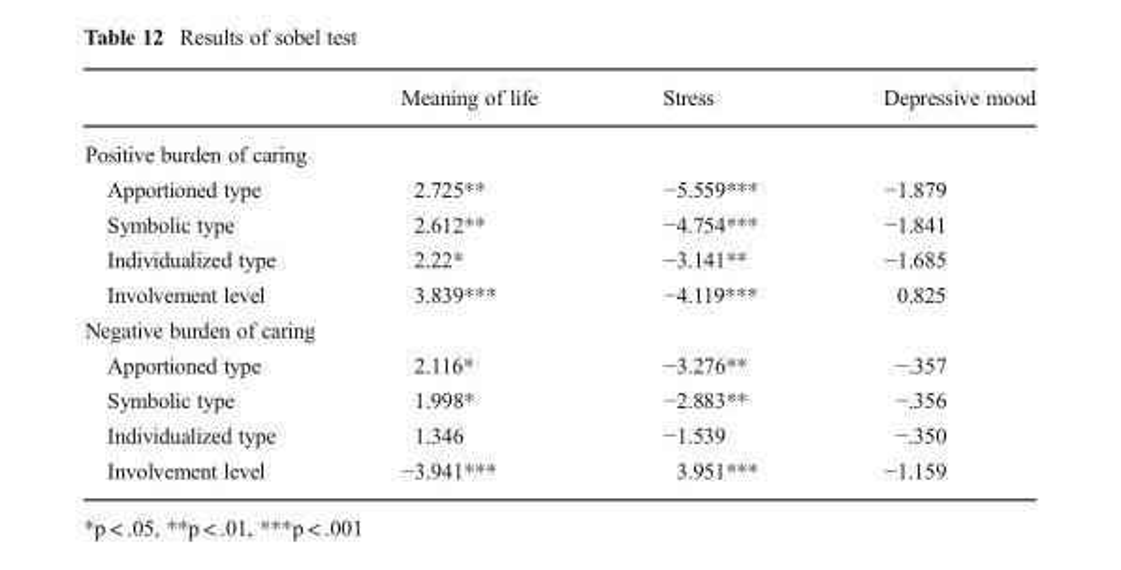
<table><thead><tr><td></td><td>Meaning of life</td><td>Stress</td><td>Depressive mood</td></tr></thead><tbody><tr><td colspan="4">Positive burden of caring</td></tr><tr><td>Apportioned type</td><td>2.725**</td><td>−5.559***</td><td>−1.879</td></tr><tr><td>Symbolic type</td><td>2.612**</td><td>−4.754***</td><td>−1.841</td></tr><tr><td>Individualized type</td><td>2.22*</td><td>−3.141**</td><td>−1.685</td></tr><tr><td>Involvement level</td><td>3.839***</td><td>−4.119***</td><td>0.825</td></tr><tr><td colspan="4">Negative burden of caring</td></tr><tr><td>Apportioned type</td><td>2.116*</td><td>−3.276**</td><td>−.357</td></tr><tr><td>Symbolic type</td><td>1.998*</td><td>−2.883**</td><td>−.356</td></tr><tr><td>Individualized type</td><td>1.346</td><td>−1.539</td><td>−.350</td></tr><tr><td>Involvement level</td><td>−3.941***</td><td>3.951***</td><td>−1.159</td></tr></tbody></table>